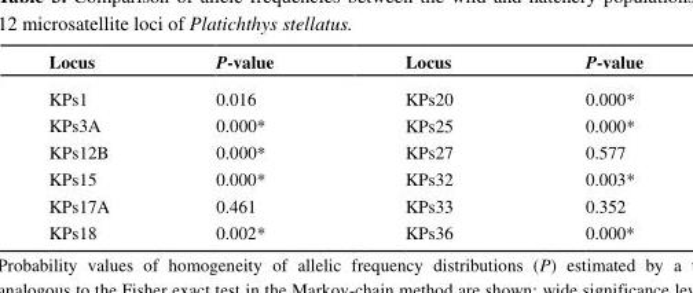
<table><thead><tr><td>Locus</td><td>P-value</td><td>Locus</td><td>P-value</td></tr></thead><tbody><tr><td>KPs1</td><td>0.016</td><td>KPs20</td><td>0.000*</td></tr><tr><td>KPs3A</td><td>0.000*</td><td>KPs25</td><td>0.000*</td></tr><tr><td>KPs12B</td><td>0.000*</td><td>KPs27</td><td>0.577</td></tr><tr><td>KPs15</td><td>0.000*</td><td>KPs32</td><td>0.003*</td></tr><tr><td>KPs17A</td><td>0.461</td><td>KPs33</td><td>0.352</td></tr><tr><td>KPs18</td><td>0.002*</td><td>KPs36</td><td>0.000*</td></tr></tbody></table>